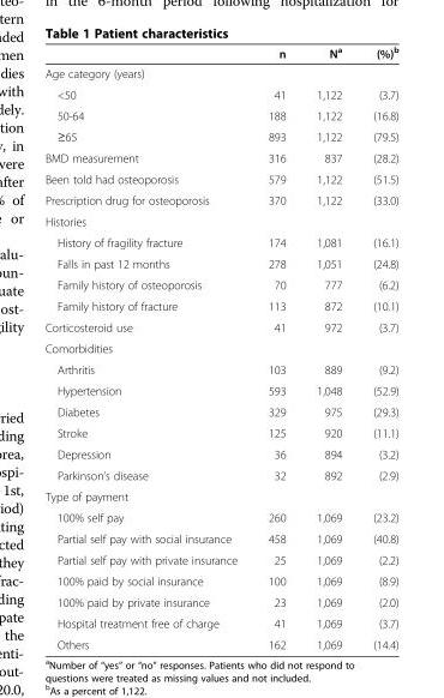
<table><thead><tr><td></td><td>n</td><td>N<sup>a</sup></td><td>(%)<sup>b</sup></td></tr></thead><tbody><tr><td colspan="4">Age category (years)</td></tr><tr><td>&lt;50</td><td>41</td><td>1,122</td><td>(3.7)</td></tr><tr><td>50-64</td><td>188</td><td>1,122</td><td>(16.8)</td></tr><tr><td>≥65</td><td>893</td><td>1,122</td><td>(79.5)</td></tr><tr><td>BMD measurement</td><td>316</td><td>837</td><td>(28.2)</td></tr><tr><td>Been told had osteoporosis</td><td>579</td><td>1,122</td><td>(51.5)</td></tr><tr><td>Prescription drug for osteoporosis</td><td>370</td><td>1,122</td><td>(33.0)</td></tr><tr><td colspan="4">Histories</td></tr><tr><td>History of fragility fracture</td><td>174</td><td>1,081</td><td>(16.1)</td></tr><tr><td>Falls in past 12 months</td><td>278</td><td>1,051</td><td>(24.8)</td></tr><tr><td>Family history of osteoporosis</td><td>70</td><td>777</td><td>(6.2)</td></tr><tr><td>Family history of fracture</td><td>113</td><td>872</td><td>(10.1)</td></tr><tr><td>Corticosteroid use</td><td>41</td><td>972</td><td>(3.7)</td></tr><tr><td colspan="4">Comorbidities</td></tr><tr><td>Arthritis</td><td>103</td><td>889</td><td>(9.2)</td></tr><tr><td>Hypertension</td><td>593</td><td>1,048</td><td>(52.9)</td></tr><tr><td>Diabetes</td><td>329</td><td>975</td><td>(29.3)</td></tr><tr><td>Stroke</td><td>125</td><td>920</td><td>(11.1)</td></tr><tr><td>Depression</td><td>36</td><td>894</td><td>(3.2)</td></tr><tr><td>Parkinson’s disease</td><td>32</td><td>892</td><td>(2.9)</td></tr><tr><td colspan="4">Type of payment</td></tr><tr><td>100% self pay</td><td>260</td><td>1,069</td><td>(23.2)</td></tr><tr><td>Partial self pay with social insurance</td><td>458</td><td>1,069</td><td>(40.8)</td></tr><tr><td>Partial self pay with private insurance</td><td>25</td><td>1,069</td><td>(2.2)</td></tr><tr><td>100% paid by social insurance</td><td>100</td><td>1,069</td><td>(8.9)</td></tr><tr><td>100% paid by private insurance</td><td>23</td><td>1,069</td><td>(2.0)</td></tr><tr><td>Hospital treatment free of charge</td><td>41</td><td>1,069</td><td>(3.7)</td></tr><tr><td>Others</td><td>162</td><td>1,069</td><td>(14.4)</td></tr></tbody></table>